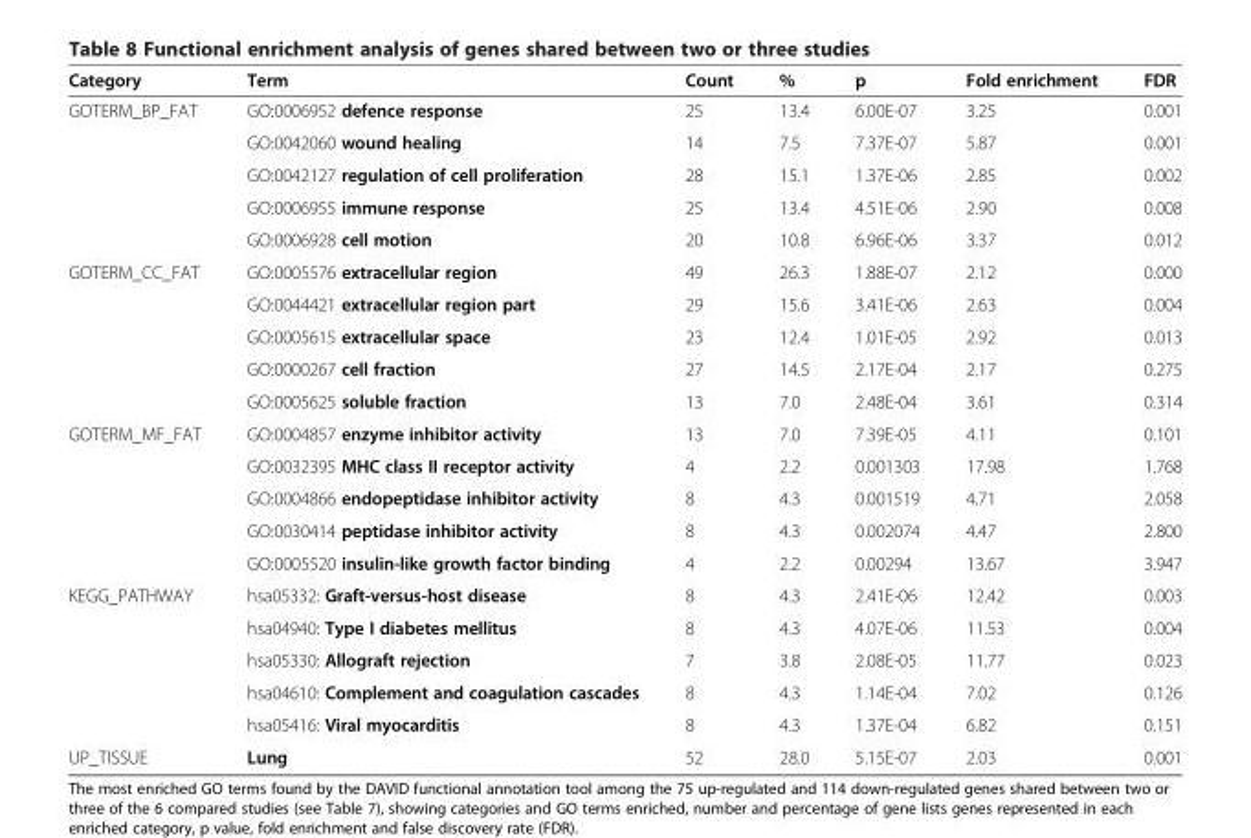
<table><thead><tr><td>Category</td><td>Term</td><td>Count</td><td>%</td><td>p</td><td>Fold enrichment</td><td>FDR</td></tr></thead><tbody><tr><td rowspan="5">GOTERM_BP_FAT</td><td>GO:0006952 defence response</td><td>25</td><td>13.4</td><td>6.00E-07</td><td>3.25</td><td>0.001</td></tr><tr><td>GO:0042060 wound healing</td><td>14</td><td>7.5</td><td>7.37E-07</td><td>5.87</td><td>0.001</td></tr><tr><td>GO:0042127 regulation of cell proliferation</td><td>28</td><td>15.1</td><td>1.37E-06</td><td>2.85</td><td>0.002</td></tr><tr><td>GO:0006955 immune response</td><td>25</td><td>13.4</td><td>4.51E-06</td><td>2.90</td><td>0.008</td></tr><tr><td>GO:0006928 cell motion</td><td>20</td><td>10.8</td><td>6.96E-06</td><td>3.37</td><td>0.012</td></tr><tr><td rowspan="5">GOTERM_CC_FAT</td><td>GO:0005576 extracellular region</td><td>49</td><td>26.3</td><td>1.88E-07</td><td>2.12</td><td>0.000</td></tr><tr><td>GO:0044421 extracellular region part</td><td>29</td><td>15.6</td><td>3.41E-06</td><td>2.63</td><td>0.004</td></tr><tr><td>GO:0005615 extracellular space</td><td>23</td><td>12.4</td><td>1.01E-05</td><td>2.92</td><td>0.013</td></tr><tr><td>GO:0000267 cell fraction</td><td>27</td><td>14.5</td><td>2.17E-04</td><td>2.17</td><td>0.275</td></tr><tr><td>GO:0005625 soluble fraction</td><td>13</td><td>7.0</td><td>2.48E-04</td><td>3.61</td><td>0.314</td></tr><tr><td rowspan="5">GOTERM_MF_FAT</td><td>GO:0004857 enzyme inhibitor activity</td><td>13</td><td>7.0</td><td>7.39E-05</td><td>4.11</td><td>0.101</td></tr><tr><td>GO:0032395 MHC class II receptor activity</td><td>4</td><td>2.2</td><td>0.001303</td><td>17.98</td><td>1.768</td></tr><tr><td>GO:0004866 endopeptidase inhibitor activity</td><td>8</td><td>4.3</td><td>0.001519</td><td>4.71</td><td>2.058</td></tr><tr><td>GO:0030414 peptidase inhibitor activity</td><td>8</td><td>4.3</td><td>0.002074</td><td>4.47</td><td>2.800</td></tr><tr><td>GO:0005520 insulin-like growth factor binding</td><td>4</td><td>2.2</td><td>0.00294</td><td>13.67</td><td>3.947</td></tr><tr><td rowspan="5">KEGG_PATHWAY</td><td>hsa05332: Graft-versus-host disease</td><td>8</td><td>4.3</td><td>2.41E-06</td><td>12.42</td><td>0.003</td></tr><tr><td>hsa04940: Type I diabetes mellitus</td><td>8</td><td>4.3</td><td>4.07E-06</td><td>11.53</td><td>0.004</td></tr><tr><td>hsa05330: Allograft rejection</td><td>7</td><td>3.8</td><td>2.08E-05</td><td>11.77</td><td>0.023</td></tr><tr><td>hsa04610: Complement and coagulation cascades</td><td>8</td><td>4.3</td><td>1.14E-04</td><td>7.02</td><td>0.126</td></tr><tr><td>hsa05416: Viral myocarditis</td><td>8</td><td>4.3</td><td>1.37E-04</td><td>6.82</td><td>0.151</td></tr><tr><td>UP_TISSUE</td><td>Lung</td><td>52</td><td>28.0</td><td>5.15E-07</td><td>2.03</td><td>0.001</td></tr></tbody></table>